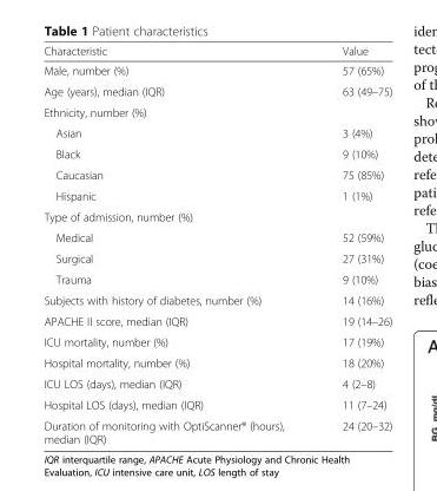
<table><thead><tr><td>Characteristic</td><td>Value</td></tr></thead><tbody><tr><td>Male, number (%)</td><td>57 (65%)</td></tr><tr><td>Age (years), median (IQR)</td><td>63 (49–75)</td></tr><tr><td colspan="2">Ethnicity, number (%)</td></tr><tr><td>Asian</td><td>3 (4%)</td></tr><tr><td>Black</td><td>9 (10%)</td></tr><tr><td>Caucasian</td><td>75 (85%)</td></tr><tr><td>Hispanic</td><td>1 (1%)</td></tr><tr><td colspan="2">Type of admission, number (%)</td></tr><tr><td>Medical</td><td>52 (59%)</td></tr><tr><td>Surgical</td><td>27 (31%)</td></tr><tr><td>Trauma</td><td>9 (10%)</td></tr><tr><td>Subjects with history of diabetes, number (%)</td><td>14 (16%)</td></tr><tr><td>APACHE II score, median (IQR)</td><td>19 (14–26)</td></tr><tr><td>ICU mortality, number (%)</td><td>17 (19%)</td></tr><tr><td>Hospital mortality, number (%)</td><td>18 (20%)</td></tr><tr><td>ICU LOS (days), median (IQR)</td><td>4 (2–8)</td></tr><tr><td>Hospital LOS (days), median (IQR)</td><td>11 (7–24)</td></tr><tr><td>Duration of monitoring with OptiScanner® (hours), median (IQR)</td><td>24 (20–32)</td></tr></tbody></table>